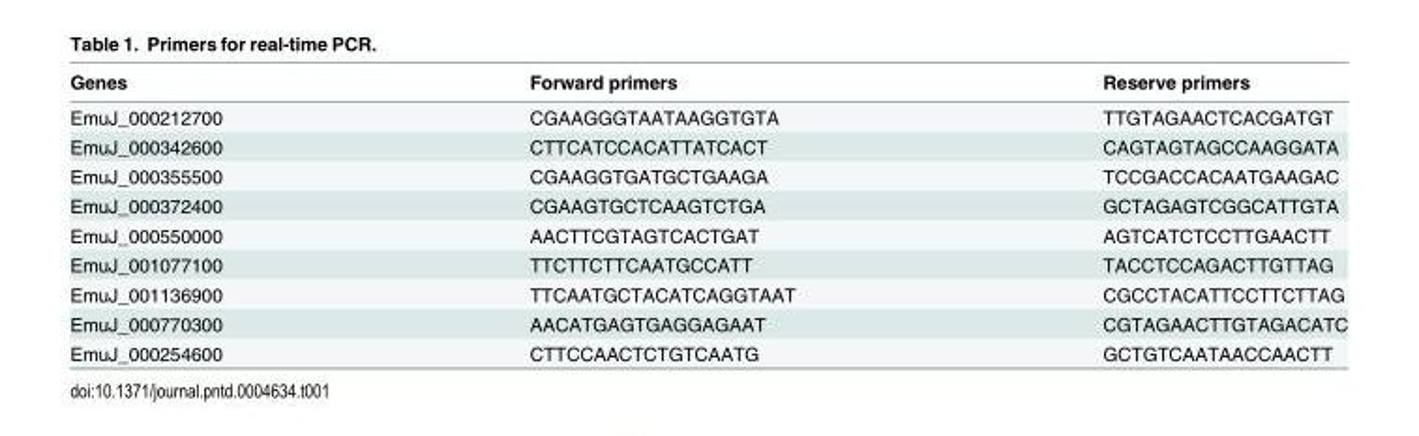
<table><thead><tr><td>Genes</td><td>Forward primers</td><td>Reserve primers</td></tr></thead><tbody><tr><td>EmuJ_000212700</td><td>CGAAGGGTAATAAGGTGTA</td><td>TTGTAGAACTCACGATGT</td></tr><tr><td>EmuJ_000342600</td><td>CTTCATCCACATTATCACT</td><td>CAGTAGTAGCCAAGGATA</td></tr><tr><td>EmuJ_000355500</td><td>CGAAGGTGATGCTGAAGA</td><td>TCCGACCACAATGAAGAC</td></tr><tr><td>EmuJ_000372400</td><td>CGAAGTGCTCAAGTCTGA</td><td>GCTAGAGTCGGCATTGTA</td></tr><tr><td>EmuJ_000550000</td><td>AACTTCGTAGTCACTGAT</td><td>AGTCATCTCCTTGAACTT</td></tr><tr><td>EmuJ_001077100</td><td>TTCTTCTTCAATGCCATT</td><td>TACCTCCAGACTTGTTAG</td></tr><tr><td>EmuJ_001136900</td><td>TTCAATGCTACATCAGGTAAT</td><td>CGCCTACATTCCTTCTTAG</td></tr><tr><td>EmuJ_000770300</td><td>AACATGAGTGAGGAGAAT</td><td>CGTAGAACTTGTAGACATC</td></tr><tr><td>EmuJ_000254600</td><td>CTTCCAACTCTGTCAATG</td><td>GCTGTCAATAACCAACTT</td></tr></tbody></table>